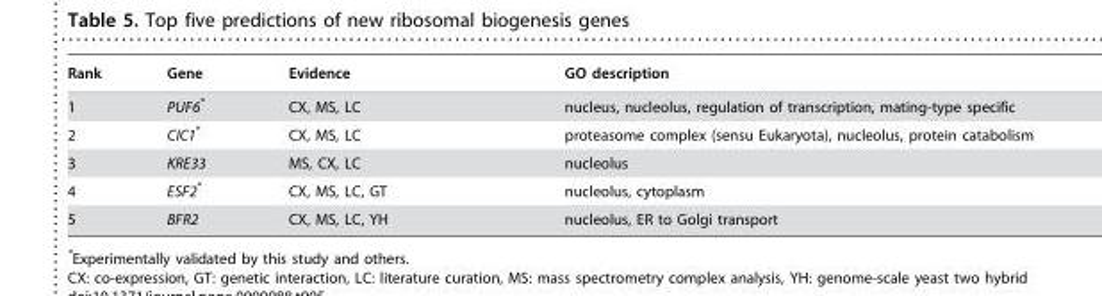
<table><thead><tr><td>Rank</td><td>Gene</td><td>Evidence</td><td>GO description</td></tr></thead><tbody><tr><td>1</td><td>PUF6*</td><td>CX, MS, LC</td><td>nucleus, nucleolus, regulation of transcription, mating-type specific</td></tr><tr><td>2</td><td>CIC1*</td><td>CX, MS, LC</td><td>proteasome complex (sensu Eukaryota), nucleolus, protein catabolism</td></tr><tr><td>3</td><td>KRE33</td><td>MS, CX, LC</td><td>nucleolus</td></tr><tr><td>4</td><td>ESF2*</td><td>CX, MS, LC, GT</td><td>nucleolus, cytoplasm</td></tr><tr><td>5</td><td>BFR2</td><td>CX, MS, LC, YH</td><td>nucleolus, ER to Golgi transport</td></tr></tbody></table>